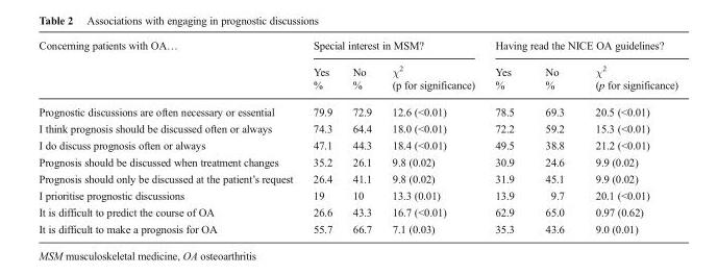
<table><thead><tr><td rowspan="2">Concerning patients with OA…</td><td colspan="3">Special interest in MSM?</td><td colspan="3">Having read the NICE OA guidelines?</td></tr><tr><td>Yes %</td><td>No %</td><td>χ<sup>2</sup> (p for significance)</td><td>Yes %</td><td>No %</td><td>χ<sup>2</sup> (p for significance)</td></tr></thead><tbody><tr><td>Prognostic discussions are often necessary or essential</td><td>79.9</td><td>72.9</td><td>12.6 (&lt;0.01)</td><td>78.5</td><td>69.3</td><td>20.5 (&lt;0.01)</td></tr><tr><td>I think prognosis should be discussed often or always</td><td>74.3</td><td>64.4</td><td>18.0 (&lt;0.01)</td><td>72.2</td><td>59.2</td><td>15.3 (&lt;0.01)</td></tr><tr><td>I do discuss prognosis often or always</td><td>47.1</td><td>44.3</td><td>18.4 (&lt;0.01)</td><td>49.5</td><td>38.8</td><td>21.2 (&lt;0.01)</td></tr><tr><td>Prognosis should be discussed when treatment changes</td><td>35.2</td><td>26.1</td><td>9.8 (0.02)</td><td>30.9</td><td>24.6</td><td>9.9 (0.02)</td></tr><tr><td>Prognosis should only be discussed at the patient’s request</td><td>26.4</td><td>41.1</td><td>9.8 (0.02)</td><td>31.9</td><td>45.1</td><td>9.9 (0.02)</td></tr><tr><td>I prioritise prognostic discussions</td><td>19</td><td>10</td><td>13.3 (0.01)</td><td>13.9</td><td>9.7</td><td>20.1 (&lt;0.01)</td></tr><tr><td>It is difficult to predict the course of OA</td><td>26.6</td><td>43.3</td><td>16.7 (&lt;0.01)</td><td>62.9</td><td>65.0</td><td>0.97 (0.62)</td></tr><tr><td>It is difficult to make a prognosis for OA</td><td>55.7</td><td>66.7</td><td>7.1 (0.03)</td><td>35.3</td><td>43.6</td><td>9.0 (0.01)</td></tr></tbody></table>